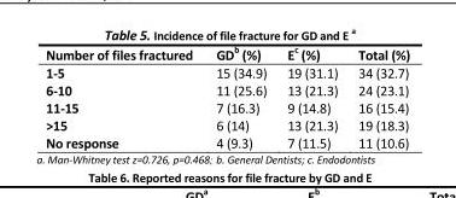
<table><thead><tr><td>Number of files fractured</td><td>GD<sup>b</sup> (%)</td><td>Ec (%)</td><td>Total (%)</td></tr></thead><tbody><tr><td>1-5</td><td>15 (34.9)</td><td>19 (31.1)</td><td>34 (32.7)</td></tr><tr><td>6-10</td><td>11 (25.6)</td><td>13 (21.3)</td><td>24 (23.1)</td></tr><tr><td>11-15</td><td>7 (16.3)</td><td>9 (14.8)</td><td>16 (15.4)</td></tr><tr><td>&gt;15</td><td>6 (14)</td><td>13 (21.3)</td><td>19 (18.3)</td></tr><tr><td>No response</td><td>4 (9.3)</td><td>7 (11.5)</td><td>11 (10.6)</td></tr></tbody></table>